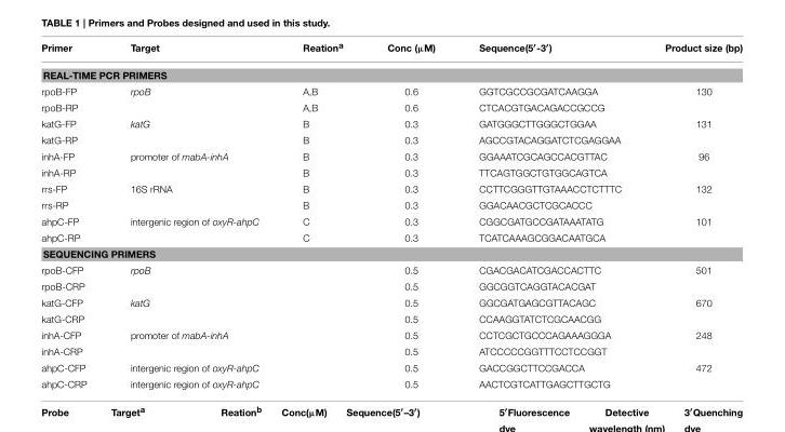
<table><thead><tr><td>Primer</td><td>Target</td><td>Reation<sup>a</sup></td><td>Conc (µM)</td><td>Sequence(5′-3′)</td><td>Product size (bp)</td></tr></thead><tbody><tr><td colspan="6">REAL-TIME PCR PRIMERS</td></tr><tr><td>rpoB-FP</td><td>rpoB</td><td>A,B</td><td>0.6</td><td>GGTCGCCGCGATCAAGGA</td><td>130</td></tr><tr><td>rpoB-RP</td><td></td><td>A,B</td><td>0.6</td><td>CTCACGTGACAGACCGCCG</td><td></td></tr><tr><td>katG-FP</td><td>katG</td><td>B</td><td>0.3</td><td>GATGGGCTTGGGCTGGAA</td><td>131</td></tr><tr><td>katG-RP</td><td></td><td>B</td><td>0.3</td><td>AGCCGTACAGGATCTCGAGGAA</td><td></td></tr><tr><td>inhA-FP</td><td>promoter of mabA-inhA</td><td>B</td><td>0.3</td><td>GGAAATCGCAGCCACGTTAC</td><td>96</td></tr><tr><td>inhA-RP</td><td></td><td>B</td><td>0.3</td><td>TTCAGTGGCTGTGGCAGTCA</td><td></td></tr><tr><td>rrs-FP</td><td>16S rRNA</td><td>B</td><td>0.3</td><td>CCTTCGGGTTGTAAACCTCTTTC</td><td>132</td></tr><tr><td>rrs-RP</td><td></td><td>B</td><td>0.3</td><td>GGACAACGCTCGCACCC</td><td></td></tr><tr><td>ahpC-FP</td><td>intergenic region of oxyR-ahpC</td><td>C</td><td>0.3</td><td>CGGCGATGCCGATAAATATG</td><td>101</td></tr><tr><td>ahpC-RP</td><td></td><td>C</td><td>0.3</td><td>TCATCAAAGCGGACAATGCA</td><td></td></tr><tr><td colspan="6">SEQUENCING PRIMERS</td></tr><tr><td>rpoB-CFP</td><td>rpoB</td><td></td><td>0.5</td><td>CGACGACATCGACCACTTC</td><td>501</td></tr><tr><td>rpoB-CRP</td><td></td><td></td><td>0.5</td><td>GGCGGTCAGGTACACGAT</td><td></td></tr><tr><td>katG-CFP</td><td>katG</td><td></td><td>0.5</td><td>GGCGATGAGCGTTACAGC</td><td>670</td></tr><tr><td>katG-CRP</td><td></td><td></td><td>0.5</td><td>CCAAGGTATCTCGCAACGG</td><td></td></tr><tr><td>inhA-CFP</td><td>promoter of mabA-inhA</td><td></td><td>0.5</td><td>CCTCGCTGCCCAGAAAGGGA</td><td>248</td></tr><tr><td>inhA-CRP</td><td></td><td></td><td>0.5</td><td>ATCCCCCGGTTTCCTCCGGT</td><td></td></tr><tr><td>ahpC-CFP</td><td>intergenic region of oxyR-ahpC</td><td></td><td>0.5</td><td>GACCGGCTTCCGACCA</td><td>472</td></tr><tr><td>ahpC-CRP</td><td>intergenic region of oxyR-ahpC</td><td></td><td>0.5</td><td>AACTCGTCATTGAGCTTGCTG</td><td></td></tr></tbody></table>